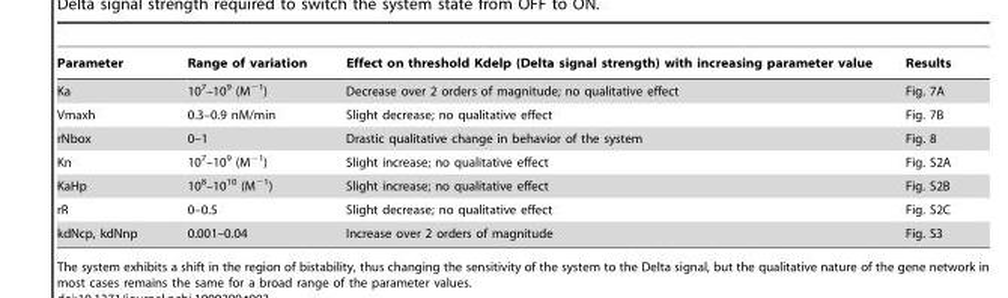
<table><thead><tr><td>Parameter</td><td>Range of variation</td><td>Effect on threshold Kdelp (Delta signal strength) with increasing parameter value</td><td>Results</td></tr></thead><tbody><tr><td>Ka</td><td>10<sup>7</sup>–10<sup>9</sup> (M<sup>−1</sup>)</td><td>Decrease over 2 orders of magnitude; no qualitative effect</td><td>Fig. 7A</td></tr><tr><td>Vmaxh</td><td>0.3–0.9 nM/min</td><td>Slight decrease; no qualitative effect</td><td>Fig. 7B</td></tr><tr><td>rNbox</td><td>0–1</td><td>Drastic qualitative change in behavior of the system</td><td>Fig. 8</td></tr><tr><td>Kn</td><td>10<sup>7</sup>–10<sup>9</sup> (M<sup>−1</sup>)</td><td>Slight increase; no qualitative effect</td><td>Fig. S2A</td></tr><tr><td>KaHp</td><td>10<sup>8</sup>–10<sup>10</sup> (M<sup>−1</sup>)</td><td>Slight increase; no qualitative effect</td><td>Fig. S2B</td></tr><tr><td>rR</td><td>0–0.5</td><td>Slight decrease; no qualitative effect</td><td>Fig. S2C</td></tr><tr><td>kdNcp, kdNnp</td><td>0.001–0.04</td><td>Increase over 2 orders of magnitude</td><td>Fig. S3</td></tr></tbody></table>